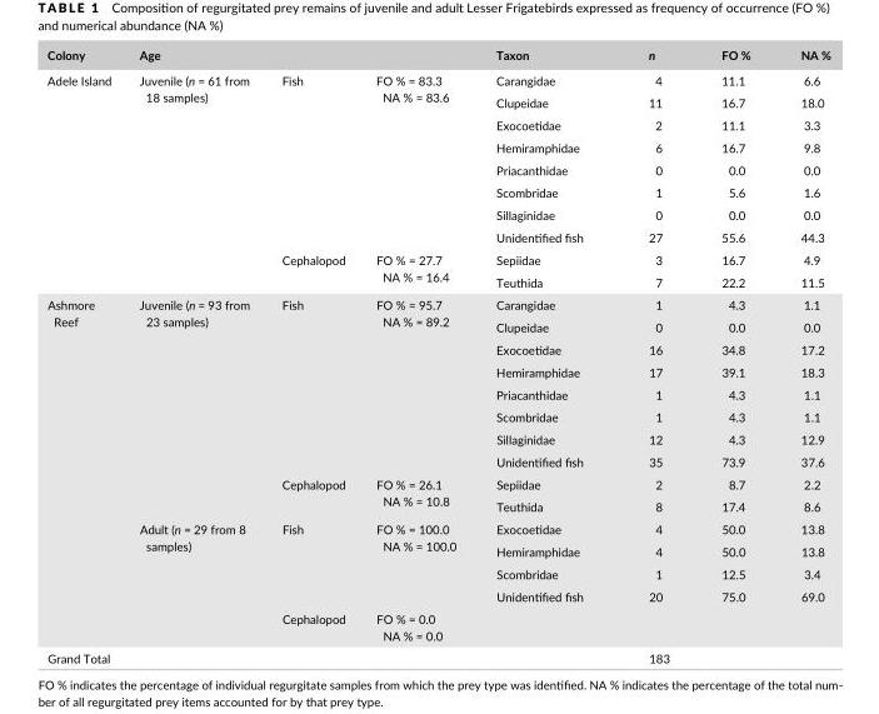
<table><thead><tr><td>Colony</td><td>Age</td><td></td><td></td><td>Taxon</td><td>n</td><td>FO %</td><td>NA %</td></tr></thead><tbody><tr><td rowspan="10">Adele Island</td><td rowspan="10">Juvenile (n = 61 from 18 samples)</td><td rowspan="8">Fish</td><td rowspan="8">FO % = 83.3 NA % = 83.6</td><td>Carangidae</td><td>4</td><td>11.1</td><td>6.6</td></tr><tr><td>Clupeidae</td><td>11</td><td>16.7</td><td>18.0</td></tr><tr><td>Exocoetidae</td><td>2</td><td>11.1</td><td>3.3</td></tr><tr><td>Hemiramphidae</td><td>6</td><td>16.7</td><td>9.8</td></tr><tr><td>Priacanthidae</td><td>0</td><td>0.0</td><td>0.0</td></tr><tr><td>Scombridae</td><td>1</td><td>5.6</td><td>1.6</td></tr><tr><td>Sillaginidae</td><td>0</td><td>0.0</td><td>0.0</td></tr><tr><td>Unidentified fish</td><td>27</td><td>55.6</td><td>44.3</td></tr><tr><td rowspan="2">Cephalopod</td><td rowspan="2">FO % = 27.7 NA % = 16.4</td><td>Sepiidae</td><td>3</td><td>16.7</td><td>4.9</td></tr><tr><td>Teuthida</td><td>7</td><td>22.2</td><td>11.5</td></tr><tr><td rowspan="15">Ashmore Reef</td><td rowspan="10">Juvenile (n = 93 from 23 samples)</td><td rowspan="8">Fish</td><td rowspan="8">FO % = 95.7 NA % = 89.2</td><td>Carangidae</td><td>1</td><td>4.3</td><td>1.1</td></tr><tr><td>Clupeidae</td><td>0</td><td>0.0</td><td>0.0</td></tr><tr><td>Exocoetidae</td><td>16</td><td>34.8</td><td>17.2</td></tr><tr><td>Hemiramphidae</td><td>17</td><td>39.1</td><td>18.3</td></tr><tr><td>Priacanthidae</td><td>1</td><td>4.3</td><td>1.1</td></tr><tr><td>Scombridae</td><td>1</td><td>4.3</td><td>1.1</td></tr><tr><td>Sillaginidae</td><td>12</td><td>4.3</td><td>12.9</td></tr><tr><td>Unidentified fish</td><td>35</td><td>73.9</td><td>37.6</td></tr><tr><td rowspan="2">Cephalopod</td><td rowspan="2">FO % = 26.1 NA % = 10.8</td><td>Sepiidae</td><td>2</td><td>8.7</td><td>2.2</td></tr><tr><td>Teuthida</td><td>8</td><td>17.4</td><td>8.6</td></tr><tr><td rowspan="5">Adult (n = 29 from 8 samples)</td><td rowspan="4">Fish</td><td rowspan="4">FO % = 100.0 NA % = 100.0</td><td>Exocoetidae</td><td>4</td><td>50.0</td><td>13.8</td></tr><tr><td>Hemiramphidae</td><td>4</td><td>50.0</td><td>13.8</td></tr><tr><td>Scombridae</td><td>1</td><td>12.5</td><td>3.4</td></tr><tr><td>Unidentified fish</td><td>20</td><td>75.0</td><td>69.0</td></tr><tr><td>Cephalopod</td><td>FO % = 0.0 NA % = 0.0</td><td></td><td></td><td></td><td></td></tr><tr><td>Grand Total</td><td></td><td></td><td></td><td></td><td>183</td><td></td><td></td></tr></tbody></table>